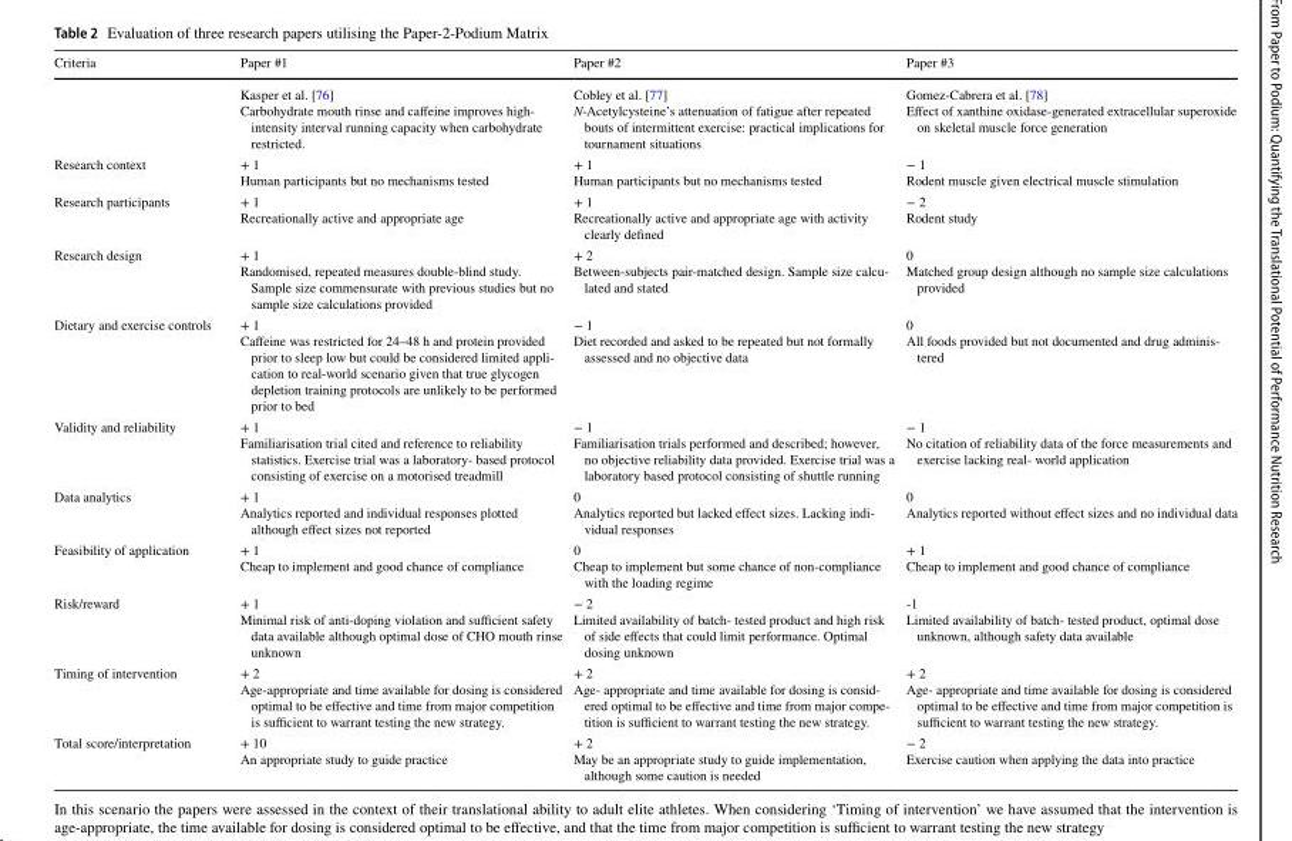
<table><thead><tr><td>Criteria</td><td>Paper #1</td><td>Paper #2</td><td>Paper #3</td></tr></thead><tbody><tr><td></td><td>Kasper et al. [76] Carbohydrate mouth rinse and caffeine improves high- intensity interval running capacity when carbohydrate restricted.</td><td>Cobley et al. [77] N-Acetylcysteine’s attenuation of fatigue after repeated bouts of intermittent exercise: practical implications for tournament situations</td><td>Gomez-Cabrera et al. [78] Effect of xanthine oxidase-generated extracellular superoxide on skeletal muscle force generation</td></tr><tr><td>Research context</td><td>+ 1 Human participants but no mechanisms tested</td><td>+ 1 Human participants but no mechanisms tested</td><td>− 1 Rodent muscle given electrical muscle stimulation</td></tr><tr><td>Research participants</td><td>+ 1 Recreationally active and appropriate age</td><td>+ 1 Recreationally active and appropriate age with activity clearly defined</td><td>− 2 Rodent study</td></tr><tr><td>Research design</td><td>+ 1 Randomised, repeated measures double-blind study. Sample size commensurate with previous studies but no sample size calculations provided</td><td>+ 2 Between-subjects pair-matched design. Sample size calcu- lated and stated</td><td>0 Matched group design although no sample size calculations provided</td></tr><tr><td>Dietary and exercise controls</td><td>+ 1 Caffeine was restricted for 24–48 h and protein provided prior to sleep low but could be considered limited appli- cation to real-world scenario given that true glycogen depletion training protocols are unlikely to be performed prior to bed</td><td>− 1 Diet recorded and asked to be repeated but not formally assessed and no objective data</td><td>0 All foods provided but not documented and drug adminis- tered</td></tr><tr><td>Validity and reliability</td><td>+ 1 Familiarisation trial cited and reference to reliability statistics. Exercise trial was a laboratory- based protocol consisting of exercise on a motorised treadmill</td><td>− 1 Familiarisation trials performed and described; however, no objective reliability data provided. Exercise trial was a laboratory based protocol consisting of shuttle running</td><td>− 1 No citation of reliability data of the force measurements and exercise lacking real- world application</td></tr><tr><td>Data analytics</td><td>+ 1 Analytics reported and individual responses plotted although effect sizes not reported</td><td>0 Analytics reported but lacked effect sizes. Lacking indi- vidual responses</td><td>0 Analytics reported without effect sizes and no individual data</td></tr><tr><td>Feasibility of application</td><td>+ 1 Cheap to implement and good chance of compliance</td><td>0 Cheap to implement but some chance of non-compliance with the loading regime</td><td>+ 1 Cheap to implement and good chance of compliance</td></tr><tr><td>Risk/reward</td><td>+ 1 Minimal risk of anti-doping violation and sufficient safety data available although optimal dose of CHO mouth rinse unknown</td><td>− 2 Limited availability of batch- tested product and high risk of side effects that could limit performance. Optimal dosing unknown</td><td>-1 Limited availability of batch- tested product, optimal dose unknown, although safety data available</td></tr><tr><td>Timing of intervention</td><td>+ 2 Age-appropriate and time available for dosing is considered optimal to be effective and time from major competition is sufficient to warrant testing the new strategy.</td><td>+ 2 Age- appropriate and time available for dosing is consid- ered optimal to be effective and time from major compe- tition is sufficient to warrant testing the new strategy.</td><td>+ 2 Age- appropriate and time available for dosing is considered optimal to be effective and time from major competition is sufficient to warrant testing the new strategy.</td></tr><tr><td>Total score/interpretation</td><td>+ 10 An appropriate study to guide practice</td><td>+ 2 May be an appropriate study to guide implementation, although some caution is needed</td><td>− 2 Exercise caution when applying the data into practice</td></tr></tbody></table>